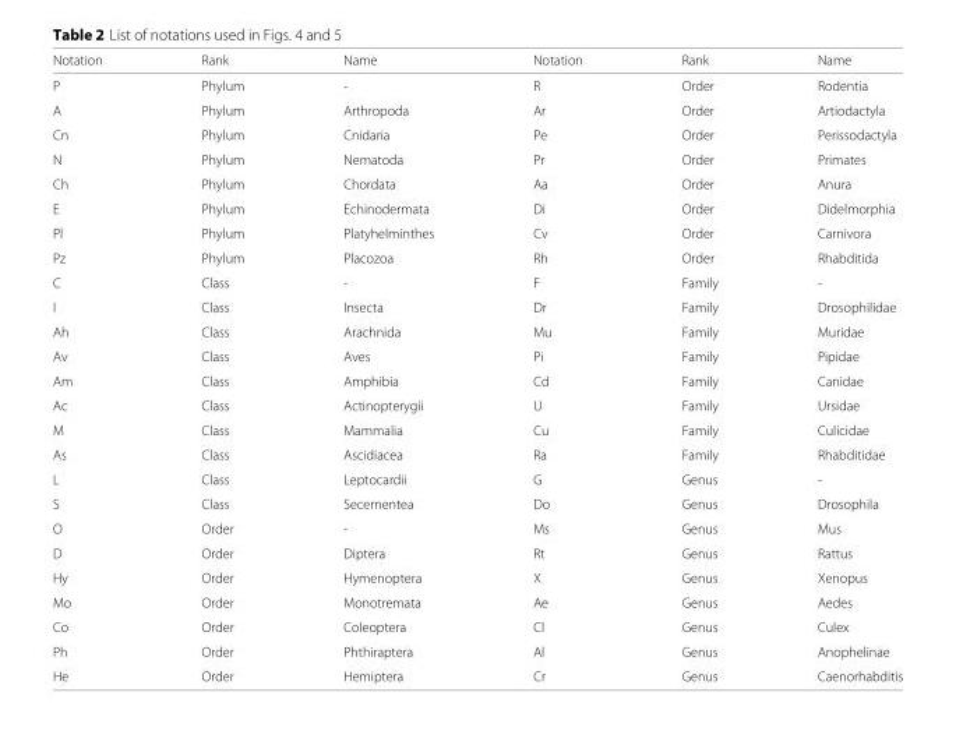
<table><thead><tr><td>Notation</td><td>Rank</td><td>Name</td><td>Notation</td><td>Rank</td><td>Name</td></tr></thead><tbody><tr><td>P</td><td>Phylum</td><td>-</td><td>R</td><td>Order</td><td>Rodentia</td></tr><tr><td>A</td><td>Phylum</td><td>Arthropoda</td><td>Ar</td><td>Order</td><td>Artiodactyla</td></tr><tr><td>Cn</td><td>Phylum</td><td>Cnidaria</td><td>Pe</td><td>Order</td><td>Perissodactyla</td></tr><tr><td>N</td><td>Phylum</td><td>Nematoda</td><td>Pr</td><td>Order</td><td>Primates</td></tr><tr><td>Ch</td><td>Phylum</td><td>Chordata</td><td>Aa</td><td>Order</td><td>Anura</td></tr><tr><td>E</td><td>Phylum</td><td>Echinodermata</td><td>Di</td><td>Order</td><td>Didelmorphia</td></tr><tr><td>Pl</td><td>Phylum</td><td>Platyhelminthes</td><td>Cv</td><td>Order</td><td>Carnivora</td></tr><tr><td>Pz</td><td>Phylum</td><td>Placozoa</td><td>Rh</td><td>Order</td><td>Rhabditida</td></tr><tr><td>C</td><td>Class</td><td>-</td><td>F</td><td>Family</td><td>-</td></tr><tr><td>I</td><td>Class</td><td>Insecta</td><td>Dr</td><td>Family</td><td>Drosophilidae</td></tr><tr><td>Ah</td><td>Class</td><td>Arachnida</td><td>Mu</td><td>Family</td><td>Muridae</td></tr><tr><td>Av</td><td>Class</td><td>Aves</td><td>Pi</td><td>Family</td><td>Pipidae</td></tr><tr><td>Am</td><td>Class</td><td>Amphibia</td><td>Cd</td><td>Family</td><td>Canidae</td></tr><tr><td>Ac</td><td>Class</td><td>Actinopterygii</td><td>U</td><td>Family</td><td>Ursidae</td></tr><tr><td>M</td><td>Class</td><td>Mammalia</td><td>Cu</td><td>Family</td><td>Culicidae</td></tr><tr><td>As</td><td>Class</td><td>Ascidiacea</td><td>Ra</td><td>Family</td><td>Rhabditidae</td></tr><tr><td>L</td><td>Class</td><td>Leptocardii</td><td>G</td><td>Genus</td><td>-</td></tr><tr><td>S</td><td>Class</td><td>Secernentea</td><td>Do</td><td>Genus</td><td>Drosophila</td></tr><tr><td>O</td><td>Order</td><td>-</td><td>Ms</td><td>Genus</td><td>Mus</td></tr><tr><td>D</td><td>Order</td><td>Diptera</td><td>Rt</td><td>Genus</td><td>Rattus</td></tr><tr><td>Hy</td><td>Order</td><td>Hymenoptera</td><td>X</td><td>Genus</td><td>Xenopus</td></tr><tr><td>Mo</td><td>Order</td><td>Monotremata</td><td>Ae</td><td>Genus</td><td>Aedes</td></tr><tr><td>Co</td><td>Order</td><td>Coleoptera</td><td>Cl</td><td>Genus</td><td>Culex</td></tr><tr><td>Ph</td><td>Order</td><td>Phthiraptera</td><td>Al</td><td>Genus</td><td>Anophelinae</td></tr><tr><td>He</td><td>Order</td><td>Hemiptera</td><td>Cr</td><td>Genus</td><td>Caenorhabditis</td></tr></tbody></table>